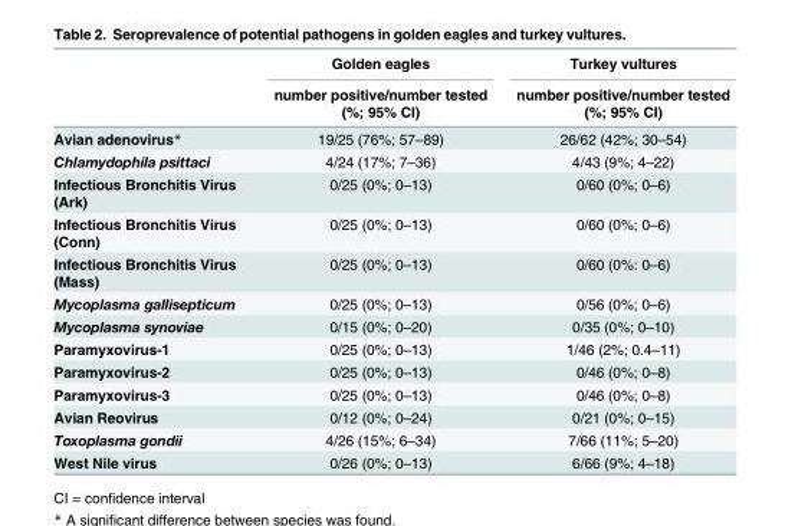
<table><thead><tr><td rowspan="2"></td><td rowspan="2">Golden eagles number positive/number tested (%; 95% CI)</td><td rowspan="2">Turkey vultures number positive/number tested (%; 95% CI)</td></tr><tr></tr></thead><tbody><tr><td>Avian adenovirus*</td><td>19/25 (76%; 57–89)</td><td>26/62 (42%; 30–54)</td></tr><tr><td>Chlamydophila psittaci</td><td>4/24 (17%; 7–36)</td><td>4/43 (9%; 4–22)</td></tr><tr><td>Infectious Bronchitis Virus (Ark)</td><td>0/25 (0%; 0–13)</td><td>0/60 (0%; 0–6)</td></tr><tr><td>Infectious Bronchitis Virus (Conn)</td><td>0/25 (0%; 0–13)</td><td>0/60 (0%; 0–6)</td></tr><tr><td>Infectious Bronchitis Virus (Mass)</td><td>0/25 (0%; 0–13)</td><td>0/60 (0%: 0–6)</td></tr><tr><td>Mycoplasma gallisepticum</td><td>0/25 (0%; 0–13)</td><td>0/56 (0%; 0–6)</td></tr><tr><td>Mycoplasma synoviae</td><td>0/15 (0%; 0–20)</td><td>0/35 (0%; 0–10)</td></tr><tr><td>Paramyxovirus-1</td><td>0/25 (0%; 0–13)</td><td>1/46 (2%; 0.4–11)</td></tr><tr><td>Paramyxovirus-2</td><td>0/25 (0%; 0–13)</td><td>0/46 (0%; 0–8)</td></tr><tr><td>Paramyxovirus-3</td><td>0/25 (0%; 0–13)</td><td>0/46 (0%; 0–8)</td></tr><tr><td>Avian Reovirus</td><td>0/12 (0%; 0–24)</td><td>0/21 (0%; 0–15)</td></tr><tr><td>Toxoplasma gondii</td><td>4/26 (15%; 6–34)</td><td>7/66 (11%; 5–20)</td></tr><tr><td>West Nile virus</td><td>0/26 (0%; 0–13)</td><td>6/66 (9%; 4–18)</td></tr></tbody></table>